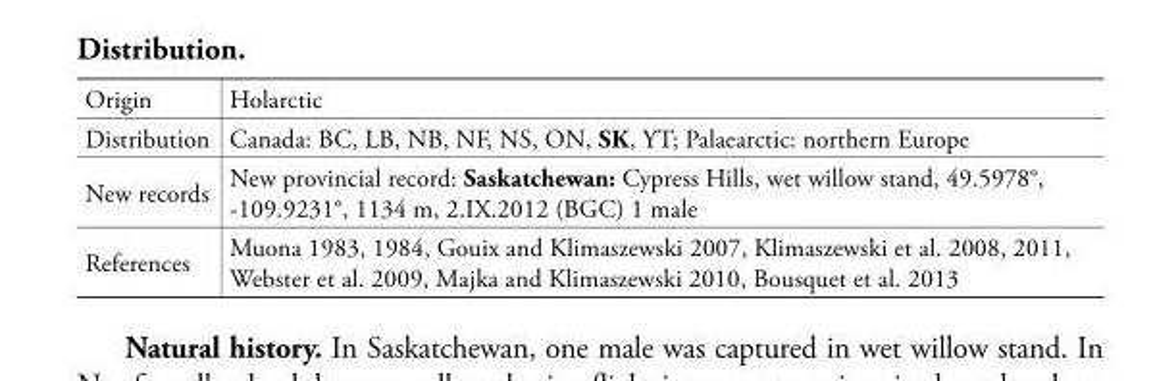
<table><tbody><tr><td>Origin</td><td>Holarctic</td></tr><tr><td>Distribution</td><td>Canada: BC, LB, NB, NF, NS, ON, SK, YT; Palaearctic: northern Europe</td></tr><tr><td>New records</td><td>New provincial record: Saskatchewan: Cypress Hills, wet willow stand, 49.5978°, -109.9231°, 1134 m, 2.IX.2012 (BGC) 1 male</td></tr><tr><td>References</td><td>Muona 1983, 1984, Gouix and Klimaszewski 2007, Klimaszewski et al. 2008, 2011, Webster et al. 2009, Majka and Klimaszewski 2010, Bousquet et al. 2013</td></tr></tbody></table>